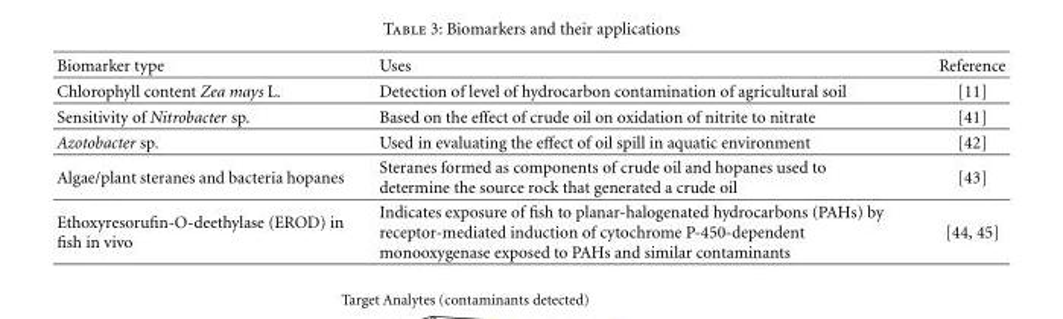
<table><thead><tr><td>Biomarker type</td><td>Uses</td><td>Reference</td></tr></thead><tbody><tr><td>Chlorophyll content Zea mays L.</td><td>Detection of level of hydrocarbon contamination of agricultural soil</td><td>[11]</td></tr><tr><td>Sensitivity of Nitrobacter sp.</td><td>Based on the effect of crude oil on oxidation of nitrite to nitrate</td><td>[41]</td></tr><tr><td>Azotobacter sp.</td><td>Used in evaluating the effect of oil spill in aquatic environment</td><td>[42]</td></tr><tr><td>Algae/plant steranes and bacteria hopanes</td><td>Steranes formed as components of crude oil and hopanes used to determine the source rock that generated a crude oil</td><td>[43]</td></tr><tr><td>Ethoxyresorufin-O-deethylase (EROD) in fish in vivo</td><td>Indicates exposure of fish to planar-halogenated hydrocarbons (PAHs) by receptor-mediated induction of cytochrome P-450-dependent monooxygenase exposed to PAHs and similar contaminants</td><td>[44, 45]</td></tr></tbody></table>